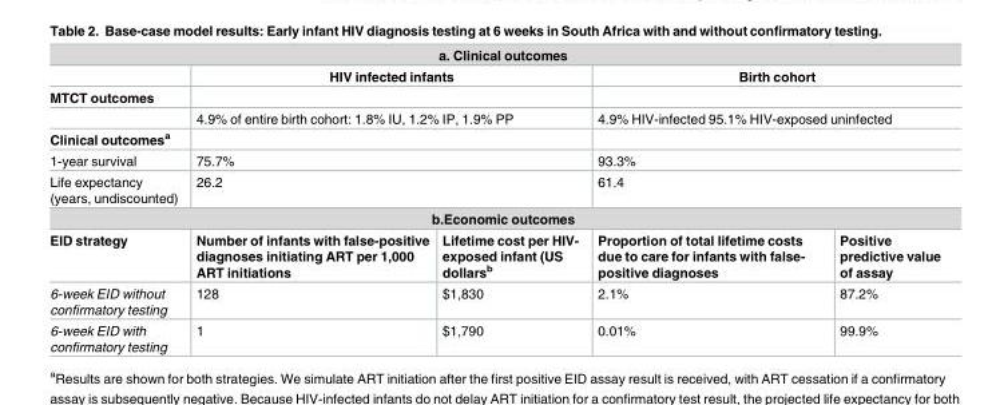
<table><tbody><tr><td colspan="5">a. Clinical outcomes</td></tr><tr><td></td><td colspan="2">HIV infected infants</td><td colspan="2">Birth cohort</td></tr><tr><td colspan="5">MTCT outcomes</td></tr><tr><td></td><td colspan="2">4.9% of entire birth cohort: 1.8% IU, 1.2% IP, 1.9% PP</td><td colspan="2">4.9% HIV-infected 95.1% HIV-exposed uninfected</td></tr><tr><td colspan="5">Clinical outcomes<sup>a</sup></td></tr><tr><td>1-year survival</td><td colspan="2">75.7%</td><td colspan="2">93.3%</td></tr><tr><td>Life expectancy (years, undiscounted)</td><td colspan="2">26.2</td><td colspan="2">61.4</td></tr><tr><td colspan="5">b.Economic outcomes</td></tr><tr><td>EID strategy</td><td>Number of infants with false-positive diagnoses initiating ART per 1,000 ART initiations</td><td>Lifetime cost per HIV- exposed infant (US dollars<sup>b</sup></td><td>Proportion of total lifetime costs due to care for infants with false- positive diagnoses</td><td>Positive predictive value of assay</td></tr><tr><td>6-week EID without confirmatory testing</td><td>128</td><td>$1,830</td><td>2.1%</td><td>87.2%</td></tr><tr><td>6-week EID with confirmatory testing</td><td>1</td><td>$1,790</td><td>0.01%</td><td>99.9%</td></tr></tbody></table>